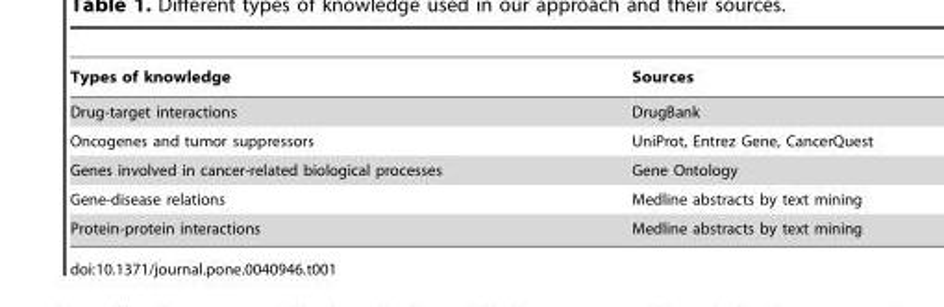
<table><thead><tr><td>Types of knowledge</td><td>Sources</td></tr></thead><tbody><tr><td>Drug-target interactions</td><td>DrugBank</td></tr><tr><td>Oncogenes and tumor suppressors</td><td>UniProt, Entrez Gene, CancerQuest</td></tr><tr><td>Genes involved in cancer-related biological processes</td><td>Gene Ontology</td></tr><tr><td>Gene-disease relations</td><td>Medline abstracts by text mining</td></tr><tr><td>Protein-protein interactions</td><td>Medline abstracts by text mining</td></tr></tbody></table>